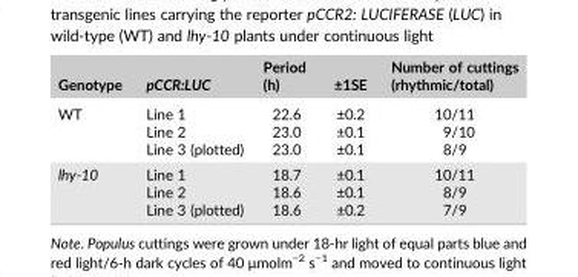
<table><thead><tr><td>Genotype</td><td>pCCR:LUC</td><td>Period (h)</td><td>±1SE</td><td>Number of cuttings (rhythmic/total)</td></tr></thead><tbody><tr><td rowspan="3">WT</td><td>Line 1</td><td>22.6</td><td>±0.2</td><td>10/11</td></tr><tr><td>Line 2</td><td>23.0</td><td>±0.1</td><td>9/10</td></tr><tr><td>Line 3 (plotted)</td><td>23.0</td><td>±0.1</td><td>8/9</td></tr><tr><td rowspan="3">lhy‐10</td><td>Line 1</td><td>18.7</td><td>±0.1</td><td>10/11</td></tr><tr><td>Line 2</td><td>18.6</td><td>±0.1</td><td>8/9</td></tr><tr><td>Line 3 (plotted)</td><td>18.6</td><td>±0.2</td><td>7/9</td></tr></tbody></table>